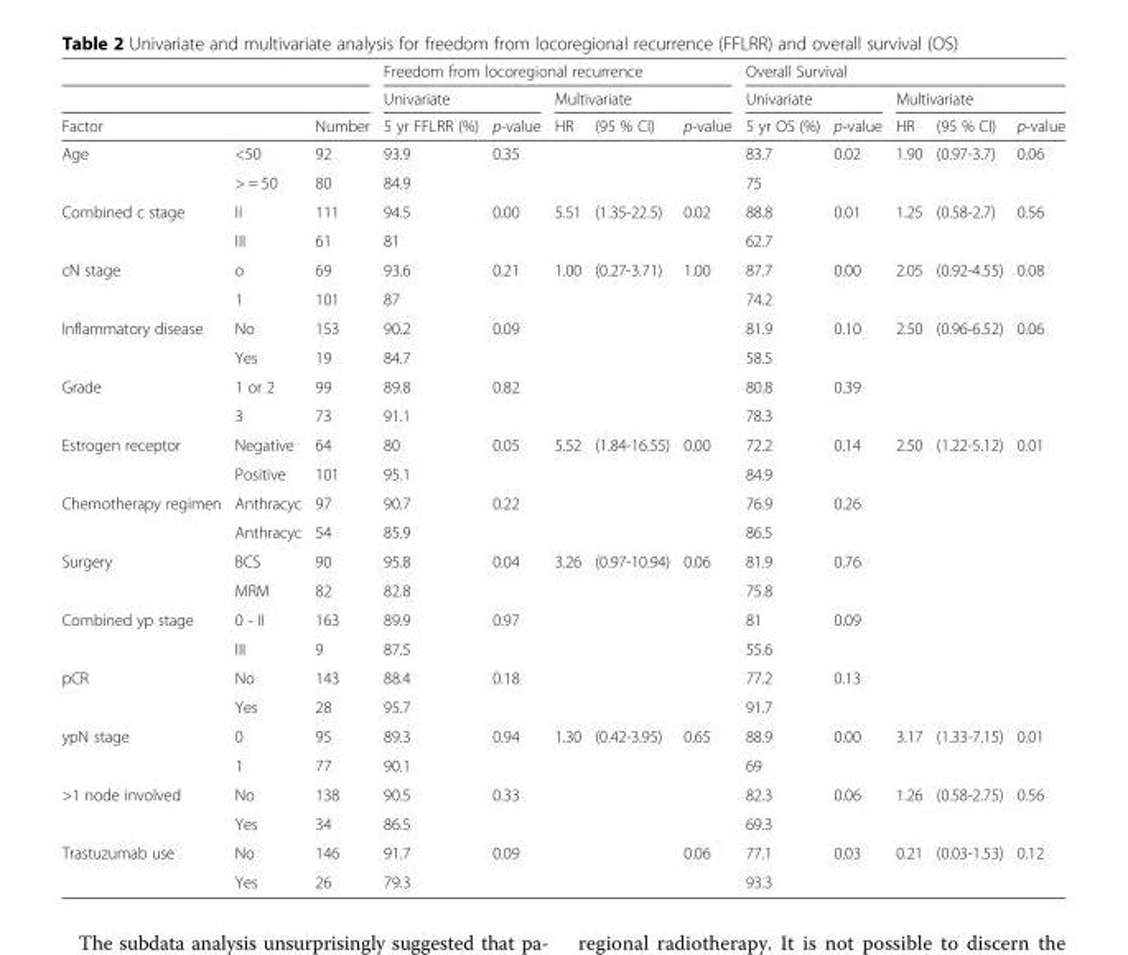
<table><thead><tr><td rowspan="3">Factor</td><td rowspan="3"></td><td rowspan="3">Number</td><td colspan="5">Freedom from locoregional recurrence</td><td colspan="5">Overall Survival</td></tr><tr><td colspan="2">Univariate</td><td colspan="3">Multivariate</td><td colspan="2">Univariate</td><td colspan="3">Multivariate</td></tr><tr><td>5 yr FFLRR (%)</td><td>p-value</td><td>HR</td><td>(95 % CI)</td><td>p-value</td><td>5 yr OS (%)</td><td>p-value</td><td>HR</td><td>(95 % CI)</td><td>p-value</td></tr></thead><tbody><tr><td rowspan="2">Age</td><td>&lt;50</td><td>92</td><td>93.9</td><td>0.35</td><td></td><td></td><td></td><td>83.7</td><td>0.02</td><td>1.90</td><td>(0.97-3.7)</td><td>0.06</td></tr><tr><td>&gt; = 50</td><td>80</td><td>84.9</td><td></td><td></td><td></td><td></td><td>75</td><td></td><td></td><td></td><td></td></tr><tr><td rowspan="2">Combined c stage</td><td>II</td><td>111</td><td>94.5</td><td>0.00</td><td>5.51</td><td>(1.35-22.5)</td><td>0.02</td><td>88.8</td><td>0.01</td><td>1.25</td><td>(0.58-2.7)</td><td>0.56</td></tr><tr><td>III</td><td>61</td><td>81</td><td></td><td></td><td></td><td></td><td>62.7</td><td></td><td></td><td></td><td></td></tr><tr><td rowspan="2">cN stage</td><td>o</td><td>69</td><td>93.6</td><td>0.21</td><td>1.00</td><td>(0.27-3.71)</td><td>1.00</td><td>87.7</td><td>0.00</td><td>2.05</td><td>(0.92-4.55)</td><td>0.08</td></tr><tr><td>1</td><td>101</td><td>87</td><td></td><td></td><td></td><td></td><td>74.2</td><td></td><td></td><td></td><td></td></tr><tr><td rowspan="2">Inflammatory disease</td><td>No</td><td>153</td><td>90.2</td><td>0.09</td><td></td><td></td><td></td><td>81.9</td><td>0.10</td><td>2.50</td><td>(0.96-6.52)</td><td>0.06</td></tr><tr><td>Yes</td><td>19</td><td>84.7</td><td></td><td></td><td></td><td></td><td>58.5</td><td></td><td></td><td></td><td></td></tr><tr><td rowspan="2">Grade</td><td>1 or 2</td><td>99</td><td>89.8</td><td>0.82</td><td></td><td></td><td></td><td>80.8</td><td>0.39</td><td></td><td></td><td></td></tr><tr><td>3</td><td>73</td><td>91.1</td><td></td><td></td><td></td><td></td><td>78.3</td><td></td><td></td><td></td><td></td></tr><tr><td rowspan="2">Estrogen receptor</td><td>Negative</td><td>64</td><td>80</td><td>0.05</td><td>5.52</td><td>(1.84-16.55)</td><td>0.00</td><td>72.2</td><td>0.14</td><td>2.50</td><td>(1.22-5.12)</td><td>0.01</td></tr><tr><td>Positive</td><td>101</td><td>95.1</td><td></td><td></td><td></td><td></td><td>84.9</td><td></td><td></td><td></td><td></td></tr><tr><td rowspan="2">Chemotherapy regimen</td><td>Anthracyc</td><td>97</td><td>90.7</td><td>0.22</td><td></td><td></td><td></td><td>76.9</td><td>0.26</td><td></td><td></td><td></td></tr><tr><td>Anthracyc</td><td>54</td><td>85.9</td><td></td><td></td><td></td><td></td><td>86.5</td><td></td><td></td><td></td><td></td></tr><tr><td rowspan="2">Surgery</td><td>BCS</td><td>90</td><td>95.8</td><td>0.04</td><td>3.26</td><td>(0.97-10.94)</td><td>0.06</td><td>81.9</td><td>0.76</td><td></td><td></td><td></td></tr><tr><td>MRM</td><td>82</td><td>82.8</td><td></td><td></td><td></td><td></td><td>75.8</td><td></td><td></td><td></td><td></td></tr><tr><td rowspan="2">Combined yp stage</td><td>0 - II</td><td>163</td><td>89.9</td><td>0.97</td><td></td><td></td><td></td><td>81</td><td>0.09</td><td></td><td></td><td></td></tr><tr><td>III</td><td>9</td><td>87.5</td><td></td><td></td><td></td><td></td><td>55.6</td><td></td><td></td><td></td><td></td></tr><tr><td rowspan="2">pCR</td><td>No</td><td>143</td><td>88.4</td><td>0.18</td><td></td><td></td><td></td><td>77.2</td><td>0.13</td><td></td><td></td><td></td></tr><tr><td>Yes</td><td>28</td><td>95.7</td><td></td><td></td><td></td><td></td><td>91.7</td><td></td><td></td><td></td><td></td></tr><tr><td rowspan="2">ypN stage</td><td>0</td><td>95</td><td>89.3</td><td>0.94</td><td>1.30</td><td>(0.42-3.95)</td><td>0.65</td><td>88.9</td><td>0.00</td><td>3.17</td><td>(1.33-7.15)</td><td>0.01</td></tr><tr><td>1</td><td>77</td><td>90.1</td><td></td><td></td><td></td><td></td><td>69</td><td></td><td></td><td></td><td></td></tr><tr><td rowspan="2">&gt;1 node involved</td><td>No</td><td>138</td><td>90.5</td><td>0.33</td><td></td><td></td><td></td><td>82.3</td><td>0.06</td><td>1.26</td><td>(0.58-2.75)</td><td>0.56</td></tr><tr><td>Yes</td><td>34</td><td>86.5</td><td></td><td></td><td></td><td></td><td>69.3</td><td></td><td></td><td></td><td></td></tr><tr><td rowspan="2">Trastuzumab use</td><td>No</td><td>146</td><td>91.7</td><td>0.09</td><td></td><td></td><td>0.06</td><td>77.1</td><td>0.03</td><td>0.21</td><td>(0.03-1.53)</td><td>0.12</td></tr><tr><td>Yes</td><td>26</td><td>79.3</td><td></td><td></td><td></td><td></td><td>93.3</td><td></td><td></td><td></td><td></td></tr></tbody></table>